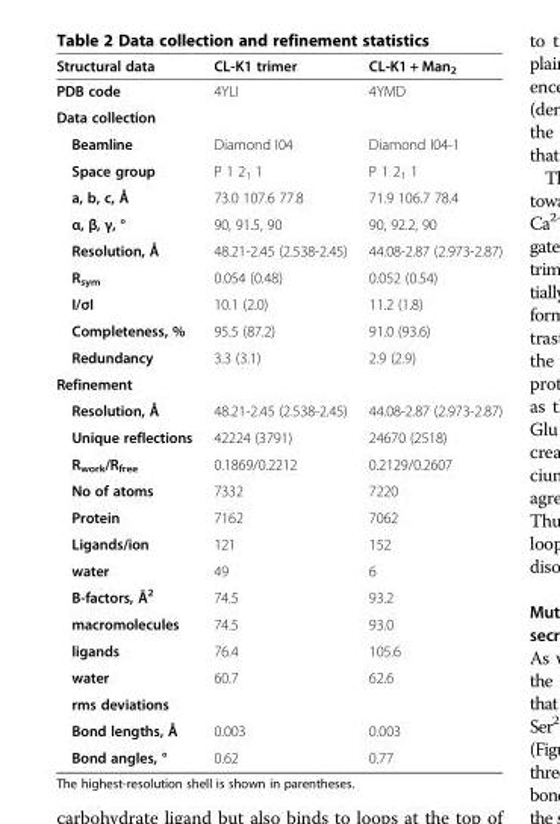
<table><thead><tr><td>Structural data</td><td>CL-K1 trimer</td><td>CL-K1 + Man<sub>2</sub></td></tr></thead><tbody><tr><td>PDB code</td><td>4YLI</td><td>4YMD</td></tr><tr><td colspan="3">Data collection</td></tr><tr><td>Beamline</td><td>Diamond I04</td><td>Diamond I04-1</td></tr><tr><td>Space group</td><td>P 1 2<sub>1</sub> 1</td><td>P 1 2<sub>1</sub> 1</td></tr><tr><td>a, b, c, Å</td><td>73.0 107.6 77.8</td><td>71.9 106.7 78.4</td></tr><tr><td>α, β, γ, °</td><td>90, 91.5, 90</td><td>90, 92.2, 90</td></tr><tr><td>Resolution, Å</td><td>48.21-2.45 (2.538-2.45)</td><td>44.08-2.87 (2.973-2.87)</td></tr><tr><td>R<sub>sym</sub></td><td>0.054 (0.48)</td><td>0.052 (0.54)</td></tr><tr><td>I/σI</td><td>10.1 (2.0)</td><td>11.2 (1.8)</td></tr><tr><td>Completeness, %</td><td>95.5 (87.2)</td><td>91.0 (93.6)</td></tr><tr><td>Redundancy</td><td>3.3 (3.1)</td><td>2.9 (2.9)</td></tr><tr><td colspan="3">Refinement</td></tr><tr><td>Resolution, Å</td><td>48.21-2.45 (2.538-2.45)</td><td>44.08-2.87 (2.973-2.87)</td></tr><tr><td>Unique reflections</td><td>42224 (3791)</td><td>24670 (2518)</td></tr><tr><td>R<sub>work</sub>/R<sub>free</sub></td><td>0.1869/0.2212</td><td>0.2129/0.2607</td></tr><tr><td>No of atoms</td><td>7332</td><td>7220</td></tr><tr><td>Protein</td><td>7162</td><td>7062</td></tr><tr><td>Ligands/ion</td><td>121</td><td>152</td></tr><tr><td>water</td><td>49</td><td>6</td></tr><tr><td>B-factors, Å<sup>2</sup></td><td>74.5</td><td>93.2</td></tr><tr><td>macromolecules</td><td>74.5</td><td>93.0</td></tr><tr><td>ligands</td><td>76.4</td><td>105.6</td></tr><tr><td>water</td><td>60.7</td><td>62.6</td></tr><tr><td colspan="3">rms deviations</td></tr><tr><td>Bond lengths, Å</td><td>0.003</td><td>0.003</td></tr><tr><td>Bond angles, °</td><td>0.62</td><td>0.77</td></tr></tbody></table>